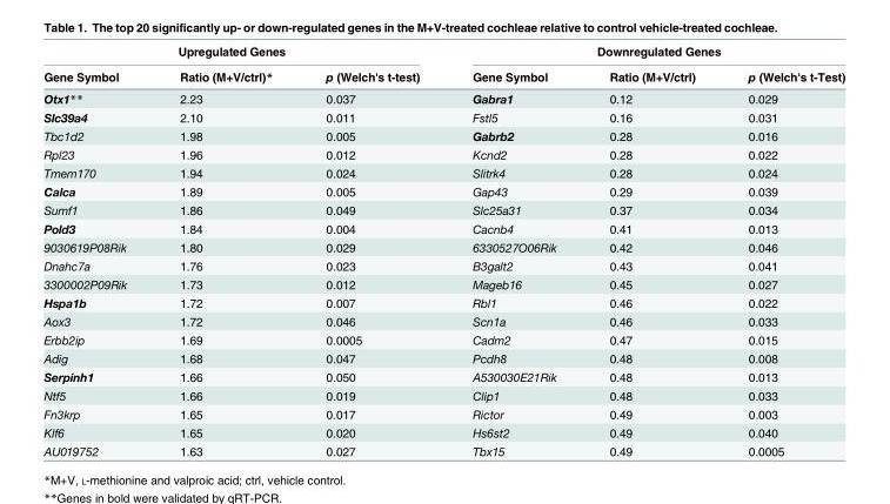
<table><thead><tr><td colspan="3">Upregulated Genes</td><td colspan="3">Downregulated Genes</td></tr><tr><td>Gene Symbol</td><td>Ratio (M+V/ctrl)*</td><td>p (Welch&#x27;s t-test)</td><td>Gene Symbol</td><td>Ratio (M+V/ctrl)</td><td>p (Welch&#x27;s t-Test)</td></tr></thead><tbody><tr><td>Otx1**</td><td>2.23</td><td>0.037</td><td>Gabra1</td><td>0.12</td><td>0.029</td></tr><tr><td>Slc39a4</td><td>2.10</td><td>0.011</td><td>Fstl5</td><td>0.16</td><td>0.031</td></tr><tr><td>Tbc1d2</td><td>1.98</td><td>0.005</td><td>Gabrb2</td><td>0.28</td><td>0.016</td></tr><tr><td>Rpl23</td><td>1.96</td><td>0.012</td><td>Kcnd2</td><td>0.28</td><td>0.022</td></tr><tr><td>Tmem170</td><td>1.94</td><td>0.024</td><td>Slitrk4</td><td>0.28</td><td>0.024</td></tr><tr><td>Calca</td><td>1.89</td><td>0.005</td><td>Gap43</td><td>0.29</td><td>0.039</td></tr><tr><td>Sumf1</td><td>1.86</td><td>0.049</td><td>Slc25a31</td><td>0.37</td><td>0.034</td></tr><tr><td>Pold3</td><td>1.84</td><td>0.004</td><td>Cacnb4</td><td>0.41</td><td>0.013</td></tr><tr><td>9030619P08Rik</td><td>1.80</td><td>0.029</td><td>6330527O06Rik</td><td>0.42</td><td>0.046</td></tr><tr><td>Dnahc7a</td><td>1.76</td><td>0.023</td><td>B3galt2</td><td>0.43</td><td>0.041</td></tr><tr><td>3300002P09Rik</td><td>1.73</td><td>0.012</td><td>Mageb16</td><td>0.45</td><td>0.027</td></tr><tr><td>Hspa1b</td><td>1.72</td><td>0.007</td><td>Rbl1</td><td>0.46</td><td>0.022</td></tr><tr><td>Aox3</td><td>1.72</td><td>0.046</td><td>Scn1a</td><td>0.46</td><td>0.033</td></tr><tr><td>Erbb2ip</td><td>1.69</td><td>0.0005</td><td>Cadm2</td><td>0.47</td><td>0.015</td></tr><tr><td>Adig</td><td>1.68</td><td>0.047</td><td>Pcdh8</td><td>0.48</td><td>0.008</td></tr><tr><td>Serpinh1</td><td>1.66</td><td>0.050</td><td>A530030E21Rik</td><td>0.48</td><td>0.013</td></tr><tr><td>Ntf5</td><td>1.66</td><td>0.019</td><td>Clip1</td><td>0.48</td><td>0.033</td></tr><tr><td>Fn3krp</td><td>1.65</td><td>0.017</td><td>Rictor</td><td>0.49</td><td>0.003</td></tr><tr><td>Klf6</td><td>1.65</td><td>0.020</td><td>Hs6st2</td><td>0.49</td><td>0.040</td></tr><tr><td>AU019752</td><td>1.63</td><td>0.027</td><td>Tbx15</td><td>0.49</td><td>0.0005</td></tr></tbody></table>